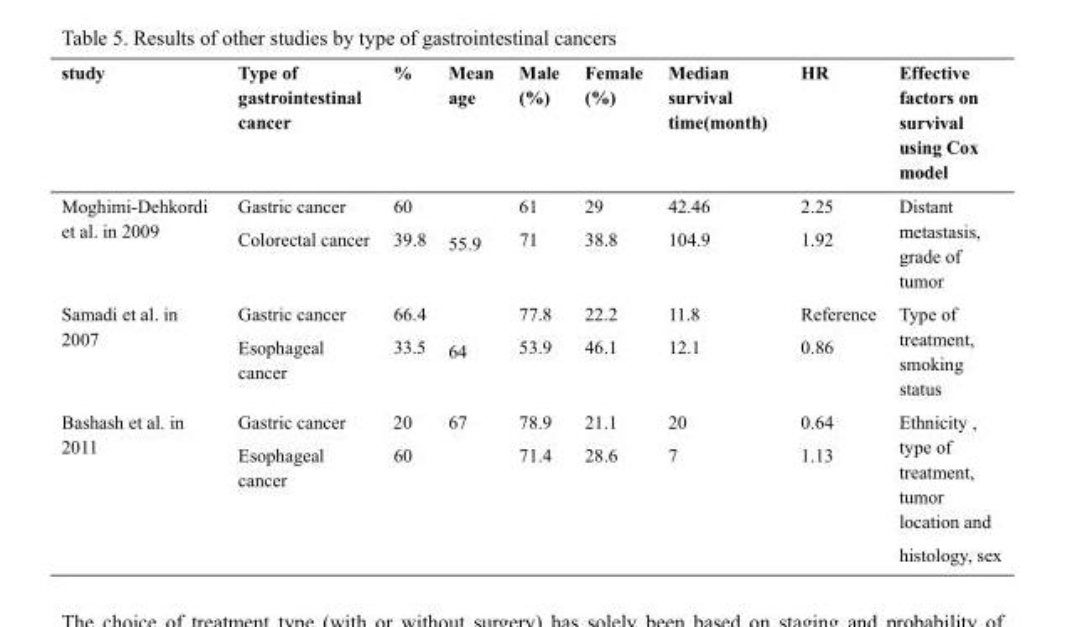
<table><thead><tr><td>study</td><td>Type of gastrointestinal cancer</td><td>%</td><td>Mean age</td><td>Male (%)</td><td>Female (%)</td><td>Median survival time(month)</td><td>HR</td><td>Effective factors on survival using Cox model</td></tr></thead><tbody><tr><td rowspan="2">Moghimi-Dehkordi et al. in 2009</td><td>Gastric cancer</td><td>60</td><td rowspan="2">55.9</td><td>61</td><td>29</td><td>42.46</td><td>2.25</td><td rowspan="2">Distant metastasis, grade of tumor</td></tr><tr><td>Colorectal cancer</td><td>39.8</td><td>71</td><td>38.8</td><td>104.9</td><td>1.92</td></tr><tr><td rowspan="2">Samadi et al. in 2007</td><td>Gastric cancer</td><td>66.4</td><td rowspan="2">64</td><td>77.8</td><td>22.2</td><td>11.8</td><td>Reference</td><td rowspan="2">Type of treatment, smoking status</td></tr><tr><td>Esophageal cancer</td><td>33.5</td><td>53.9</td><td>46.1</td><td>12.1</td><td>0.86</td></tr><tr><td rowspan="2">Bashash et al. in 2011</td><td>Gastric cancer</td><td>20</td><td>67</td><td>78.9</td><td>21.1</td><td>20</td><td>0.64</td><td rowspan="2">Ethnicity , type of treatment, tumor location and histology, sex</td></tr><tr><td>Esophageal cancer</td><td>60</td><td></td><td>71.4</td><td>28.6</td><td>7</td><td>1.13</td></tr></tbody></table>